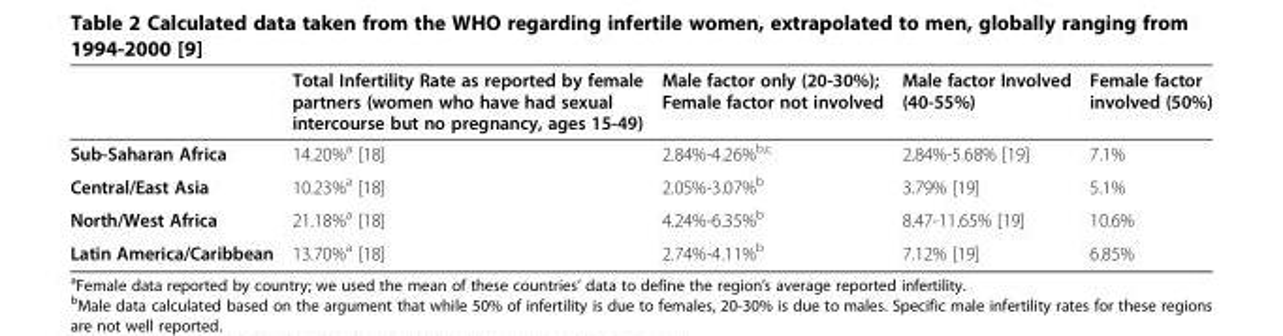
<table><thead><tr><td></td><td>Total Infertility Rate as reported by female partners (women who have had sexual intercourse but no pregnancy, ages 15-49)</td><td>Male factor only (20-30%); Female factor not involved</td><td>Male factor Involved (40-55%)</td><td>Female factor involved (50%)</td></tr></thead><tbody><tr><td>Sub-Saharan Africa</td><td>14.20%<sup>a</sup> [18]</td><td>2.84%-4.26%<sup>b,c</sup></td><td>2.84%-5.68% [19]</td><td>7.1%</td></tr><tr><td>Central/East Asia</td><td>10.23%<sup>a</sup> [18]</td><td>2.05%-3.07%<sup>b</sup></td><td>3.79% [19]</td><td>5.1%</td></tr><tr><td>North/West Africa</td><td>21.18%<sup>a</sup> [18]</td><td>4.24%-6.35%<sup>b</sup></td><td>8.47-11.65% [19]</td><td>10.6%</td></tr><tr><td>Latin America/Caribbean</td><td>13.70%<sup>a</sup> [18]</td><td>2.74%-4.11%<sup>b</sup></td><td>7.12% [19]</td><td>6.85%</td></tr></tbody></table>